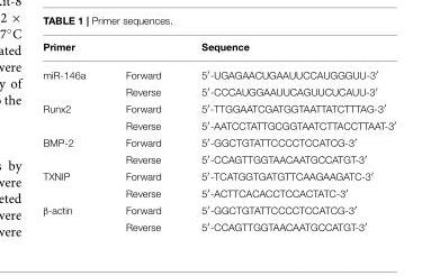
<table><thead><tr><td>Primer</td><td></td><td>Sequence</td></tr></thead><tbody><tr><td rowspan="2">miR-146a</td><td>Forward</td><td>5′-UGAGAACUGAAUUCCAUGGGUU-3′</td></tr><tr><td>Reverse</td><td>5′-CCCAUGGAAUUCAGUUCUCAUU-3′</td></tr><tr><td rowspan="2">Runx2</td><td>Forward</td><td>5′-TTGGAATCGATGGTAATTATCTTTAG-3′</td></tr><tr><td>Reverse</td><td>5′-AATCCTATTGCGGTAATCTTACCTTAAT-3′</td></tr><tr><td rowspan="2">BMP-2</td><td>Forward</td><td>5′-GGCTGTATTCCCCTCCATCG-3′</td></tr><tr><td>Reverse</td><td>5′-CCAGTTGGTAACAATGCCATGT-3′</td></tr><tr><td rowspan="2">TXNIP</td><td>Forward</td><td>5′-TCATGGTGATGTTCAAGAAGATC-3′</td></tr><tr><td>Reverse</td><td>5′-ACTTCACACCTCCACTATC-3′</td></tr><tr><td rowspan="2">β-actin</td><td>Forward</td><td>5′-GGCTGTATTCCCCTCCATCG-3′</td></tr><tr><td>Reverse</td><td>5′-CCAGTTGGTAACAATGCCATGT-3′</td></tr></tbody></table>